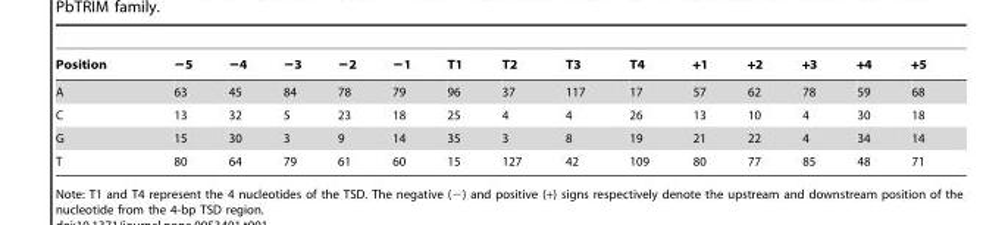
<table><thead><tr><td>Position</td><td>−5</td><td>−4</td><td>−3</td><td>−2</td><td>−1</td><td>T1</td><td>T2</td><td>T3</td><td>T4</td><td>+1</td><td>+2</td><td>+3</td><td>+4</td><td>+5</td></tr></thead><tbody><tr><td>A</td><td>63</td><td>45</td><td>84</td><td>78</td><td>79</td><td>96</td><td>37</td><td>117</td><td>17</td><td>57</td><td>62</td><td>78</td><td>59</td><td>68</td></tr><tr><td>C</td><td>13</td><td>32</td><td>5</td><td>23</td><td>18</td><td>25</td><td>4</td><td>4</td><td>26</td><td>13</td><td>10</td><td>4</td><td>30</td><td>18</td></tr><tr><td>G</td><td>15</td><td>30</td><td>3</td><td>9</td><td>14</td><td>35</td><td>3</td><td>8</td><td>19</td><td>21</td><td>22</td><td>4</td><td>34</td><td>14</td></tr><tr><td>T</td><td>80</td><td>64</td><td>79</td><td>61</td><td>60</td><td>15</td><td>127</td><td>42</td><td>109</td><td>80</td><td>77</td><td>85</td><td>48</td><td>71</td></tr></tbody></table>